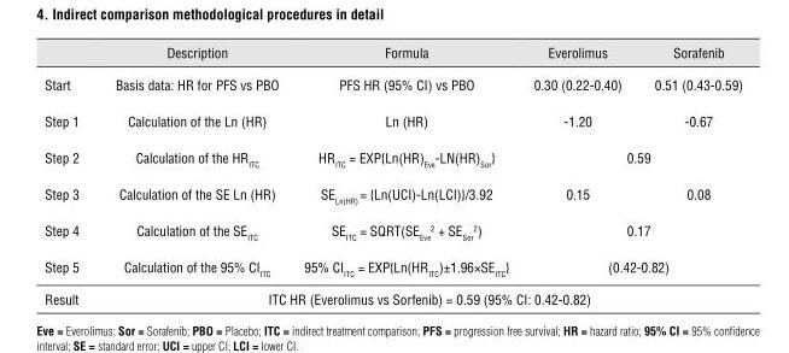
<table><thead><tr><td></td><td>Description</td><td>Formula</td><td>Everolimus</td><td>Sorafenib</td></tr></thead><tbody><tr><td>Start</td><td>Basis data: HR for PFS vs PBO</td><td>PFS HR (95% CI) vs PBO</td><td>0.30 (0.22-0.40)</td><td>0.51 (0.43-0.59)</td></tr><tr><td>Step 1</td><td>Calculation of the Ln (HR)</td><td>Ln (HR)</td><td>-1.20</td><td>-0.67</td></tr><tr><td>Step 2</td><td>Calculation of the HR<sub>ITC</sub></td><td>HR<sub>ITC</sub> = EXP{Ln(HR)<sub>Eve</sub>-LN(HR)<sub>Sor</sub>}</td><td colspan="2">0.59</td></tr><tr><td>Step 3</td><td>Calculation of the SE Ln (HR)</td><td>SE<sub>Ln(HR)</sub> = {Ln(UCI)-Ln(LCI)}/3.92</td><td>0.15</td><td>0.08</td></tr><tr><td>Step 4</td><td>Calculation of the SE<sub>ITC</sub></td><td>SE<sub>ITC</sub> = SQRT(SE<sub>Eve</sub> <sup>2</sup> + SE<sub>Sor</sub> <sup>2</sup>)</td><td colspan="2">0.17</td></tr><tr><td>Step 5</td><td>Calculation of the 95% CI<sub>ITC</sub></td><td>95% CI<sub>ITC</sub> = EXP{Ln(HR<sub>ITC</sub>)±1.96×SE<sub>ITC</sub>}</td><td colspan="2">(0.42-0.82)</td></tr><tr><td>Result</td><td colspan="4">ITC HR (Everolimus vs Sorfenib) = 0.59 (95% CI: 0.42-0.82)</td></tr></tbody></table>